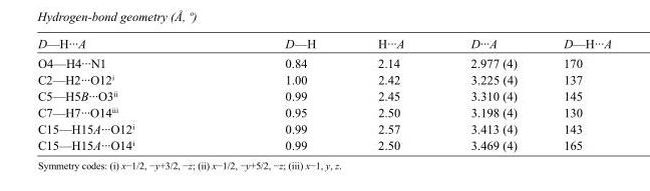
<table><tbody><tr><td>D—H···A</td><td>D—H</td><td>H···A</td><td>D···A</td><td>D—H···A</td></tr><tr><td>O4—H4···N1</td><td>0.84</td><td>2.14</td><td>2.977 (4)</td><td>170</td></tr><tr><td>C2—H2···O12<sup>i</sup></td><td>1.00</td><td>2.42</td><td>3.225 (4)</td><td>137</td></tr><tr><td>C5—H5B···O3<sup>ii</sup></td><td>0.99</td><td>2.45</td><td>3.310 (4)</td><td>145</td></tr><tr><td>C7—H7···O14<sup>iii</sup></td><td>0.95</td><td>2.50</td><td>3.198 (4)</td><td>130</td></tr><tr><td>C15—H15A···O12<sup>i</sup></td><td>0.99</td><td>2.57</td><td>3.413 (4)</td><td>143</td></tr><tr><td>C15—H15A···O14<sup>i</sup></td><td>0.99</td><td>2.50</td><td>3.469 (4)</td><td>165</td></tr></tbody></table>